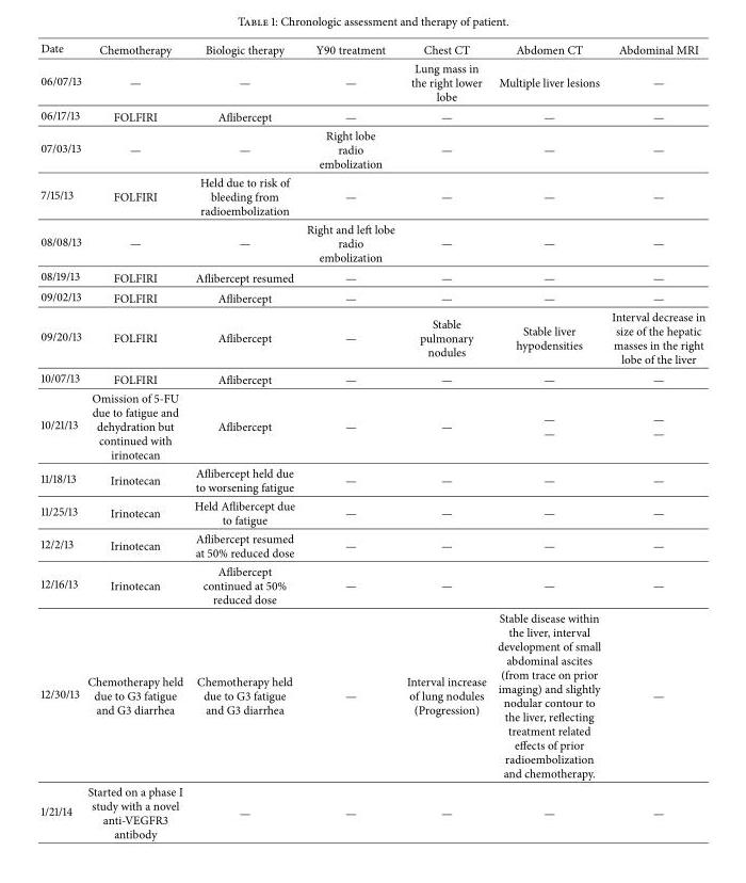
<table><thead><tr><td>Date</td><td>Chemotherapy</td><td>Biologic therapy</td><td>Y90 treatment</td><td>Chest CT</td><td>Abdomen CT</td><td>Abdominal MRI</td></tr></thead><tbody><tr><td>06/07/13</td><td>—</td><td>—</td><td>—</td><td>Lung mass in the right lower lobe</td><td>Multiple liver lesions</td><td>—</td></tr><tr><td>06/17/13</td><td>FOLFIRI</td><td>Aflibercept</td><td>—</td><td>—</td><td>—</td><td>—</td></tr><tr><td>07/03/13</td><td>—</td><td>—</td><td>Right lobe radio embolization</td><td>—</td><td>—</td><td>—</td></tr><tr><td>7/15/13</td><td>FOLFIRI</td><td>Held due to risk of bleeding from radioembolization</td><td>—</td><td>—</td><td>—</td><td>—</td></tr><tr><td>08/08/13</td><td>—</td><td>—</td><td>Right and left lobe radio embolization</td><td>—</td><td>—</td><td>—</td></tr><tr><td>08/19/13</td><td>FOLFIRI</td><td>Aflibercept resumed</td><td>—</td><td>—</td><td>—</td><td>—</td></tr><tr><td>09/02/13</td><td>FOLFIRI</td><td>Aflibercept</td><td>—</td><td>—</td><td>—</td><td>—</td></tr><tr><td>09/20/13</td><td>FOLFIRI</td><td>Aflibercept</td><td>—</td><td>Stable pulmonary nodules</td><td>Stable liver hypodensities</td><td>Interval decrease in size of the hepatic masses in the right lobe of the liver</td></tr><tr><td>10/07/13</td><td>FOLFIRI</td><td>Aflibercept</td><td>—</td><td>—</td><td>—</td><td>—</td></tr><tr><td>10/21/13</td><td>Omission of 5-FU due to fatigue and dehydration but continued with irinotecan</td><td>Aflibercept</td><td>—</td><td>—</td><td>— —</td><td>— —</td></tr><tr><td>11/18/13</td><td>Irinotecan</td><td>Aflibercept held due to worsening fatigue</td><td>—</td><td>—</td><td>—</td><td>—</td></tr><tr><td>11/25/13</td><td>Irinotecan</td><td>Held Aflibercept due to fatigue</td><td>—</td><td>—</td><td>—</td><td>—</td></tr><tr><td>12/2/13</td><td>Irinotecan</td><td>Aflibercept resumed at 50% reduced dose</td><td>—</td><td>—</td><td>—</td><td>—</td></tr><tr><td>12/16/13</td><td>Irinotecan</td><td>Aflibercept continued at 50% reduced dose</td><td>—</td><td>—</td><td>—</td><td>—</td></tr><tr><td>12/30/13</td><td>Chemotherapy held due to G3 fatigue and G3 diarrhea</td><td>Chemotherapy held due to G3 fatigue and G3 diarrhea</td><td>—</td><td>Interval increase of lung nodules (Progression)</td><td>Stable disease within the liver, interval development of small abdominal ascites (from trace on prior imaging) and slightly nodular contour to the liver, reflecting treatment related effects of prior radioembolization and chemotherapy.</td><td>—</td></tr><tr><td>1/21/14</td><td>Started on a phase I study with a novel anti-VEGFR3 antibody</td><td>—</td><td>—</td><td>—</td><td>—</td><td>—</td></tr></tbody></table>